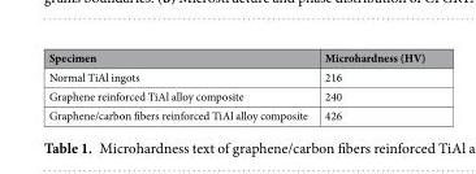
<table><thead><tr><td>Specimen</td><td>Microhardness (HV)</td></tr></thead><tbody><tr><td>Normal TiAl ingots</td><td>216</td></tr><tr><td>Graphene reinforced TiAl alloy composite</td><td>240</td></tr><tr><td>Graphene/carbon fibers reinforced TiAl alloy composite</td><td>426</td></tr></tbody></table>